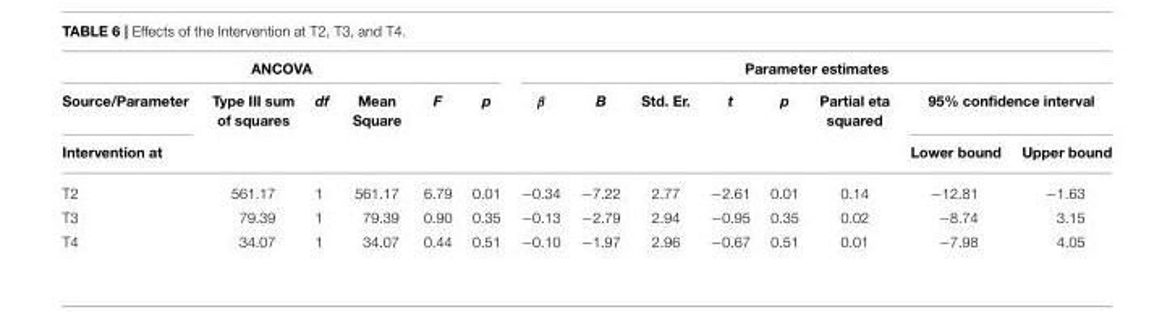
<table><thead><tr><td colspan="6">ANCOVA</td><td colspan="8">Parameter estimates</td></tr><tr><td rowspan="2">Source/Parameter Intervention at</td><td rowspan="2">Type III sum of squares</td><td rowspan="2">df</td><td rowspan="2">Mean Square</td><td rowspan="2">F</td><td rowspan="2">p</td><td rowspan="2">β</td><td rowspan="2">B</td><td rowspan="2">Std. Er.</td><td rowspan="2">t</td><td rowspan="2">p</td><td rowspan="2">Partial eta squared</td><td colspan="2">95% confidence interval</td></tr><tr><td>Lower bound</td><td>Upper bound</td></tr></thead><tbody><tr><td>T2</td><td>561.17</td><td>1</td><td>561.17</td><td>6.79</td><td>0.01</td><td>−0.34</td><td>−7.22</td><td>2.77</td><td>−2.61</td><td>0.01</td><td>0.14</td><td>−12.81</td><td>−1.63</td></tr><tr><td>T3</td><td>79.39</td><td>1</td><td>79.39</td><td>0.90</td><td>0.35</td><td>−0.13</td><td>−2.79</td><td>2.94</td><td>−0.95</td><td>0.35</td><td>0.02</td><td>−8.74</td><td>3.15</td></tr><tr><td>T4</td><td>34.07</td><td>1</td><td>34.07</td><td>0.44</td><td>0.51</td><td>−0.10</td><td>−1.97</td><td>2.96</td><td>−0.67</td><td>0.51</td><td>0.01</td><td>−7.98</td><td>4.05</td></tr></tbody></table>